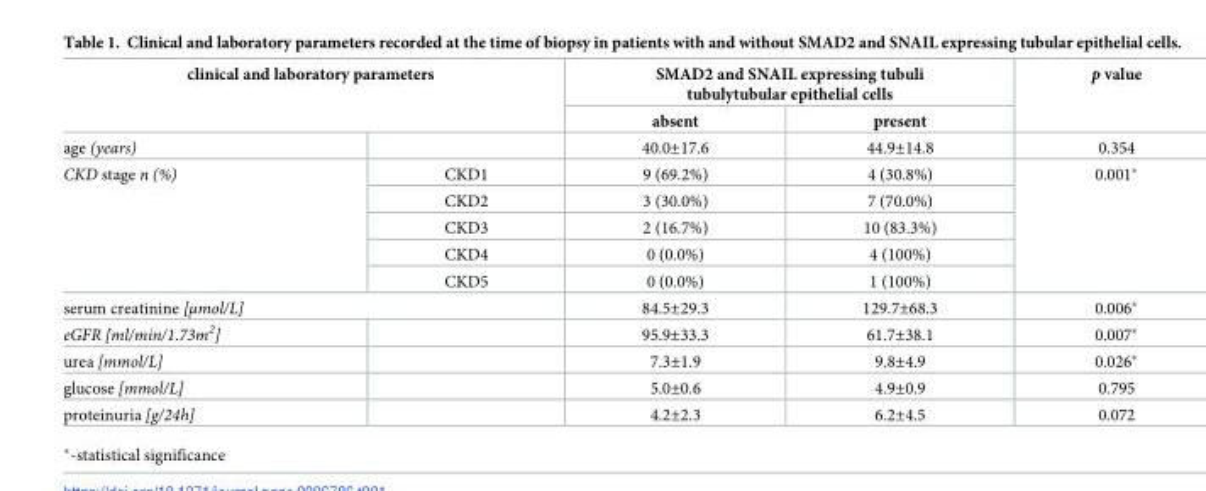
<table><thead><tr><td rowspan="2" colspan="2">clinical and laboratory parameters</td><td colspan="2">SMAD2 and SNAIL expressing tubuli tubulytubular epithelial cells</td><td rowspan="3">p value 0.354</td></tr><tr><td rowspan="2">absent 40.0±17.6</td><td rowspan="2">present 44.9±14.8</td></tr><tr><td>age (years)</td><td></td></tr></thead><tbody><tr><td rowspan="5">CKD stage n (%)</td><td>CKD1</td><td>9 (69.2%)</td><td>4 (30.8%)</td><td rowspan="5">0.001*</td></tr><tr><td>CKD2</td><td>3 (30.0%)</td><td>7 (70.0%)</td></tr><tr><td>CKD3</td><td>2 (16.7%)</td><td>10 (83.3%)</td></tr><tr><td>CKD4</td><td>0 (0.0%)</td><td>4 (100%)</td></tr><tr><td>CKD5</td><td>0 (0.0%)</td><td>1 (100%)</td></tr><tr><td colspan="2">serum creatinine [μmol/L]</td><td>84.5±29.3</td><td>129.7±68.3</td><td>0.006*</td></tr><tr><td>eGFR [ml/min/1.73m<sup>2</sup>]</td><td></td><td>95.9±33.3</td><td>61.7±38.1</td><td>0.007*</td></tr><tr><td>urea [mmol/L]</td><td></td><td>7.3±1.9</td><td>9.8±4.9</td><td>0.026*</td></tr><tr><td>glucose [mmol/L]</td><td></td><td>5.0±0.6</td><td>4.9±0.9</td><td>0.795</td></tr><tr><td>proteinuria [g/24h]</td><td></td><td>4.2±2.3</td><td>6.2±4.5</td><td>0.072</td></tr></tbody></table>